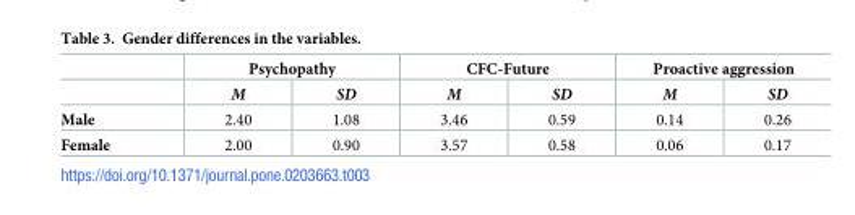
<table><thead><tr><td rowspan="2"></td><td colspan="2">Psychopathy</td><td colspan="2">CFC-Future</td><td colspan="2">Proactive aggression</td></tr><tr><td>M</td><td>SD</td><td>M</td><td>SD</td><td>M</td><td>SD</td></tr></thead><tbody><tr><td>Male</td><td>2.40</td><td>1.08</td><td>3.46</td><td>0.59</td><td>0.14</td><td>0.26</td></tr><tr><td>Female</td><td>2.00</td><td>0.90</td><td>3.57</td><td>0.58</td><td>0.06</td><td>0.17</td></tr></tbody></table>